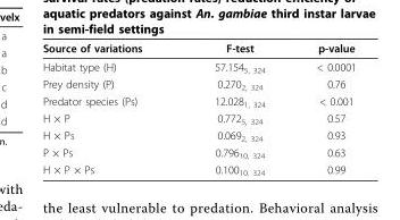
<table><thead><tr><td>Source of variations</td><td>F-test</td><td>p-value</td></tr></thead><tbody><tr><td>Habitat type (H)</td><td>57.154<sub>5, 324</sub></td><td>&lt; 0.0001</td></tr><tr><td>Prey density (P)</td><td>0.270<sub>2, 324</sub></td><td>0.76</td></tr><tr><td>Predator species (Ps)</td><td>12.028<sub>1, 324</sub></td><td>&lt; 0.001</td></tr><tr><td>H × P</td><td>0.772<sub>5, 324</sub></td><td>0.57</td></tr><tr><td>H × Ps</td><td>0.069<sub>2, 324</sub></td><td>0.93</td></tr><tr><td>P × Ps</td><td>0.796<sub>10, 324</sub></td><td>0.63</td></tr><tr><td>H × P × Ps</td><td>0.100<sub>10, 324</sub></td><td>0.99</td></tr></tbody></table>